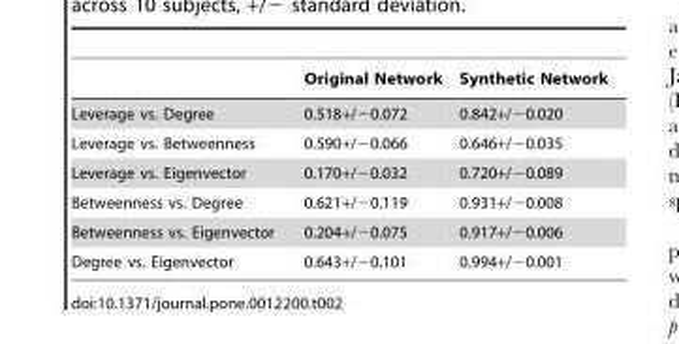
<table><thead><tr><td></td><td>Original Network</td><td>Synthetic Network</td></tr></thead><tbody><tr><td>Leverage vs. Degree</td><td>0.518+/−0.072</td><td>0.842+/−0.020</td></tr><tr><td>Leverage vs. Betweenness</td><td>0.590+/−0.066</td><td>0.646+/−0.035</td></tr><tr><td>Leverage vs. Eigenvector</td><td>0.170+/−0.032</td><td>0.720+/−0.089</td></tr><tr><td>Betweenness vs. Degree</td><td>0.621+/−0.119</td><td>0.931+/−0.008</td></tr><tr><td>Betweenness vs. Eigenvector</td><td>0.204+/−0.075</td><td>0.917+/−0.006</td></tr><tr><td>Degree vs. Eigenvector</td><td>0.643+/−0.101</td><td>0.994+/−0.001</td></tr></tbody></table>